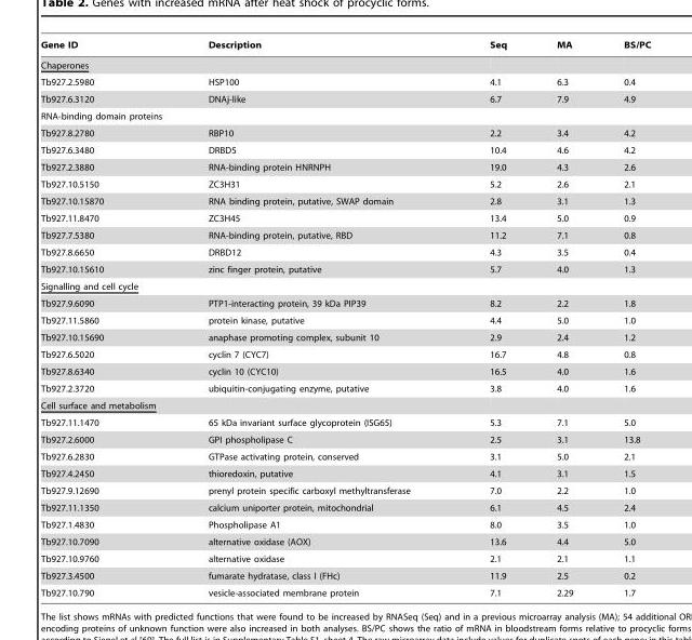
<table><thead><tr><td>Gene ID</td><td>Description</td><td>Seq</td><td>MA</td><td>BS/PC</td></tr></thead><tbody><tr><td colspan="5">Chaperones</td></tr><tr><td>Tb927.2.5980</td><td>HSP100</td><td>4.1</td><td>6.3</td><td>0.4</td></tr><tr><td>Tb927.6.3120</td><td>DNAj-like</td><td>6.7</td><td>7.9</td><td>4.9</td></tr><tr><td colspan="5">RNA-binding domain proteins</td></tr><tr><td>Tb927.8.2780</td><td>RBP10</td><td>2.2</td><td>3.4</td><td>4.2</td></tr><tr><td>Tb927.6.3480</td><td>DRBD5</td><td>10.4</td><td>4.6</td><td>4.2</td></tr><tr><td>Tb927.2.3880</td><td>RNA-binding protein HNRNPH</td><td>19.0</td><td>4.3</td><td>2.6</td></tr><tr><td>Tb927.10.5150</td><td>ZC3H31</td><td>5.2</td><td>2.6</td><td>2.1</td></tr><tr><td>Tb927.10.15870</td><td>RNA binding protein, putative, SWAP domain</td><td>2.8</td><td>3.1</td><td>1.3</td></tr><tr><td>Tb927.11.8470</td><td>ZC3H45</td><td>13.4</td><td>5.0</td><td>0.9</td></tr><tr><td>Tb927.7.5380</td><td>RNA-binding protein, putative, RBD</td><td>11.2</td><td>7.1</td><td>0.8</td></tr><tr><td>Tb927.8.6650</td><td>DRBD12</td><td>4.3</td><td>3.5</td><td>0.4</td></tr><tr><td>Tb927.10.15610</td><td>zinc finger protein, putative</td><td>5.7</td><td>4.0</td><td>1.3</td></tr><tr><td colspan="5">Signalling and cell cycle</td></tr><tr><td>Tb927.9.6090</td><td>PTP1-interacting protein, 39 kDa PIP39</td><td>8.2</td><td>2.2</td><td>1.8</td></tr><tr><td>Tb927.11.5860</td><td>protein kinase, putative</td><td>4.4</td><td>5.0</td><td>1.0</td></tr><tr><td>Tb927.10.15690</td><td>anaphase promoting complex, subunit 10</td><td>2.9</td><td>2.4</td><td>1.2</td></tr><tr><td>Tb927.6.5020</td><td>cyclin 7 (CYC7)</td><td>16.7</td><td>4.8</td><td>0.8</td></tr><tr><td>Tb927.8.6340</td><td>cyclin 10 (CYC10)</td><td>16.5</td><td>4.0</td><td>1.6</td></tr><tr><td>Tb927.2.3720</td><td>ubiquitin-conjugating enzyme, putative</td><td>3.8</td><td>4.0</td><td>1.6</td></tr><tr><td colspan="5">Cell surface and metabolism</td></tr><tr><td>Tb927.11.1470</td><td>65 kDa invariant surface glycoprotein (ISG65)</td><td>5.3</td><td>7.1</td><td>5.0</td></tr><tr><td>Tb927.2.6000</td><td>GPI phospholipase C</td><td>2.5</td><td>3.1</td><td>13.8</td></tr><tr><td>Tb927.6.2830</td><td>GTPase activating protein, conserved</td><td>3.1</td><td>5.0</td><td>2.1</td></tr><tr><td>Tb927.4.2450</td><td>thioredoxin, putative</td><td>4.1</td><td>3.1</td><td>1.5</td></tr><tr><td>Tb927.9.12690</td><td>prenyl protein specific carboxyl methyltransferase</td><td>7.0</td><td>2.2</td><td>1.0</td></tr><tr><td>Tb927.11.1350</td><td>calcium uniporter protein, mitochondrial</td><td>6.1</td><td>4.5</td><td>2.4</td></tr><tr><td>Tb927.1.4830</td><td>Phospholipase A1</td><td>8.0</td><td>3.5</td><td>1.0</td></tr><tr><td>Tb927.10.7090</td><td>alternative oxidase (AOX)</td><td>13.6</td><td>4.4</td><td>5.0</td></tr><tr><td>Tb927.10.9760</td><td>alternative oxidase</td><td>2.1</td><td>2.1</td><td>1.1</td></tr><tr><td>Tb927.3.4500</td><td>fumarate hydratase, class I (FHc)</td><td>11.9</td><td>2.5</td><td>0.2</td></tr><tr><td>Tb927.10.790</td><td>vesicle-associated membrane protein</td><td>7.1</td><td>2.29</td><td>1.7</td></tr></tbody></table>